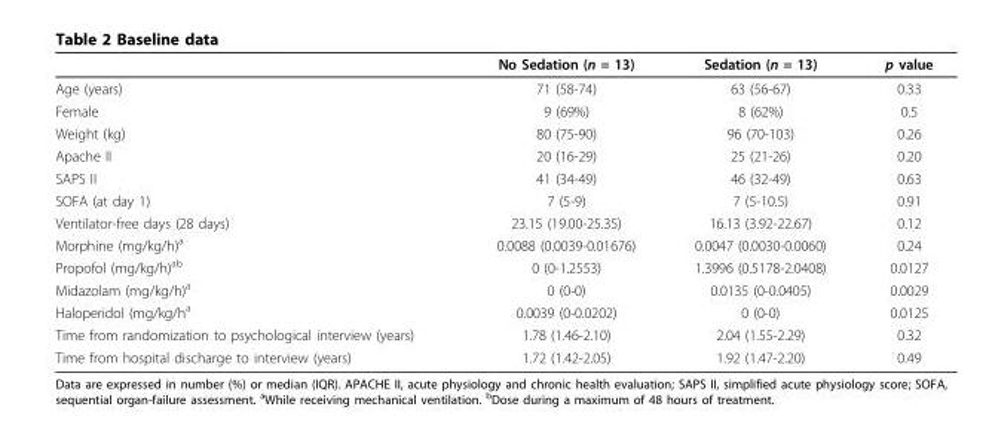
<table><thead><tr><td></td><td>No Sedation (n = 13)</td><td>Sedation (n = 13)</td><td>p value</td></tr></thead><tbody><tr><td>Age (years)</td><td>71 (58-74)</td><td>63 (56-67)</td><td>0.33</td></tr><tr><td>Female</td><td>9 (69%)</td><td>8 (62%)</td><td>0.5</td></tr><tr><td>Weight (kg)</td><td>80 (75-90)</td><td>96 (70-103)</td><td>0.26</td></tr><tr><td>Apache II</td><td>20 (16-29)</td><td>25 (21-26)</td><td>0.20</td></tr><tr><td>SAPS II</td><td>41 (34-49)</td><td>46 (32-49)</td><td>0.63</td></tr><tr><td>SOFA (at day 1)</td><td>7 (5-9)</td><td>7 (5-10.5)</td><td>0.91</td></tr><tr><td>Ventilator-free days (28 days)</td><td>23.15 (19.00-25.35)</td><td>16.13 (3.92-22.67)</td><td>0.12</td></tr><tr><td>Morphine (mg/kg/h)<sup>a</sup></td><td>0.0088 (0.0039-0.01676)</td><td>0.0047 (0.0030-0.0060)</td><td>0.24</td></tr><tr><td>Propofol (mg/kg/h)<sup>ab</sup></td><td>0 (0-1.2553)</td><td>1.3996 (0.5178-2.0408)</td><td>0.0127</td></tr><tr><td>Midazolam (mg/kg/h)<sup>a</sup></td><td>0 (0-0)</td><td>0.0135 (0-0.0405)</td><td>0.0029</td></tr><tr><td>Haloperidol (mg/kg/h<sup>a</sup></td><td>0.0039 (0-0.0202)</td><td>0 (0-0)</td><td>0.0125</td></tr><tr><td>Time from randomization to psychological interview (years)</td><td>1.78 (1.46-2.10)</td><td>2.04 (1.55-2.29)</td><td>0.32</td></tr><tr><td>Time from hospital discharge to interview (years)</td><td>1.72 (1.42-2.05)</td><td>1.92 (1.47-2.20)</td><td>0.49</td></tr></tbody></table>